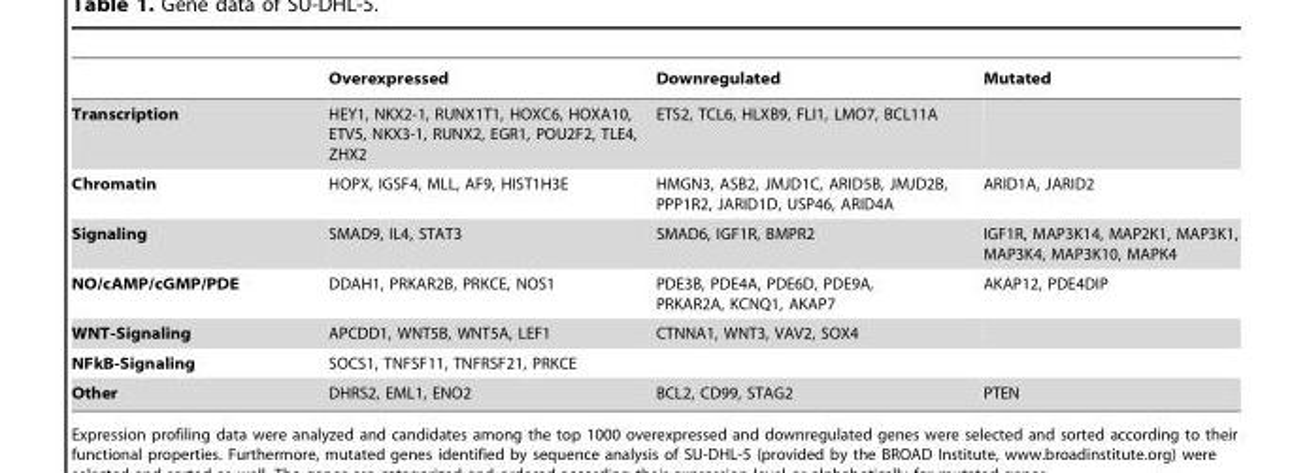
<table><thead><tr><td></td><td>Overexpressed</td><td>Downregulated</td><td>Mutated</td></tr></thead><tbody><tr><td>Transcription</td><td>HEY1, NKX2-1, RUNX1T1, HOXC6, HOXA10, ETV5, NKX3-1, RUNX2, EGR1, POU2F2, TLE4, ZHX2</td><td>ETS2, TCL6, HLXB9, FLI1, LMO7, BCL11A</td><td></td></tr><tr><td>Chromatin</td><td>HOPX, IGSF4, MLL, AF9, HIST1H3E</td><td>HMGN3, ASB2, JMJD1C, ARID5B, JMJD2B, PPP1R2, JARID1D, USP46, ARID4A</td><td>ARID1A, JARID2</td></tr><tr><td>Signaling</td><td>SMAD9, IL4, STAT3</td><td>SMAD6, IGF1R, BMPR2</td><td>IGF1R, MAP3K14, MAP2K1, MAP3K1, MAP3K4, MAP3K10, MAPK4</td></tr><tr><td>NO/cAMP/cGMP/PDE</td><td>DDAH1, PRKAR2B, PRKCE, NOS1</td><td>PDE3B, PDE4A, PDE6D, PDE9A, PRKAR2A, KCNQ1, AKAP7</td><td>AKAP12, PDE4DIP</td></tr><tr><td>WNT-Signaling</td><td>APCDD1, WNT5B, WNT5A, LEF1</td><td>CTNNA1, WNT3, VAV2, SOX4</td><td></td></tr><tr><td>NFkB-Signaling</td><td>SOCS1, TNFSF11, TNFRSF21, PRKCE</td><td></td><td></td></tr><tr><td>Other</td><td>DHRS2, EML1, ENO2</td><td>BCL2, CD99, STAG2</td><td>PTEN</td></tr></tbody></table>